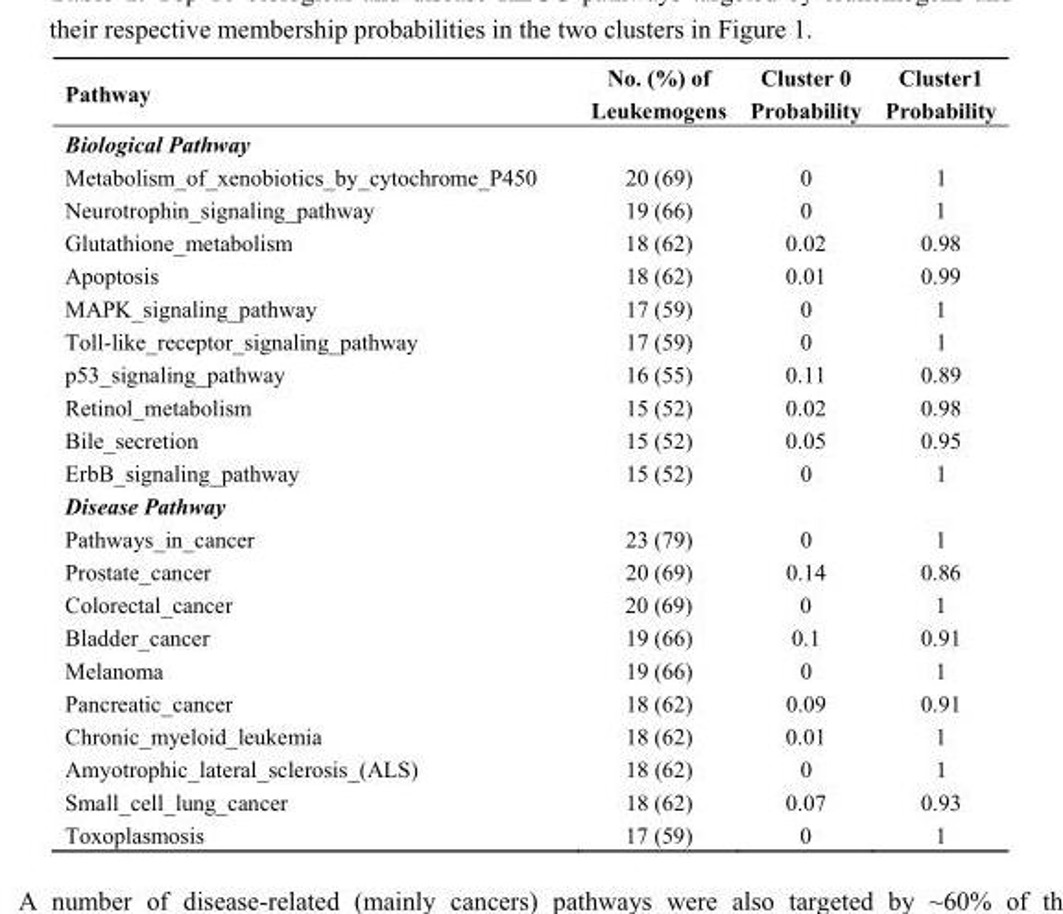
<table><thead><tr><td>Pathway</td><td>No. (%) of Leukemogens</td><td>Cluster 0 Probability</td><td>Cluster1 Probability</td></tr></thead><tbody><tr><td colspan="4">Biological Pathway</td></tr><tr><td>Metabolism_of_xenobiotics_by_cytochrome_P450</td><td>20 (69)</td><td>0</td><td>1</td></tr><tr><td>Neurotrophin_signaling_pathway</td><td>19 (66)</td><td>0</td><td>1</td></tr><tr><td>Glutathione_metabolism</td><td>18 (62)</td><td>0.02</td><td>0.98</td></tr><tr><td>Apoptosis</td><td>18 (62)</td><td>0.01</td><td>0.99</td></tr><tr><td>MAPK_signaling_pathway</td><td>17 (59)</td><td>0</td><td>1</td></tr><tr><td>Toll-like_receptor_signaling_pathway</td><td>17 (59)</td><td>0</td><td>1</td></tr><tr><td>p53_signaling_pathway</td><td>16 (55)</td><td>0.11</td><td>0.89</td></tr><tr><td>Retinol_metabolism</td><td>15 (52)</td><td>0.02</td><td>0.98</td></tr><tr><td>Bile_secretion</td><td>15 (52)</td><td>0.05</td><td>0.95</td></tr><tr><td>ErbB_signaling_pathway</td><td>15 (52)</td><td>0</td><td>1</td></tr><tr><td colspan="4">Disease Pathway</td></tr><tr><td>Pathways_in_cancer</td><td>23 (79)</td><td>0</td><td>1</td></tr><tr><td>Prostate_cancer</td><td>20 (69)</td><td>0.14</td><td>0.86</td></tr><tr><td>Colorectal_cancer</td><td>20 (69)</td><td>0</td><td>1</td></tr><tr><td>Bladder_cancer</td><td>19 (66)</td><td>0.1</td><td>0.91</td></tr><tr><td>Melanoma</td><td>19 (66)</td><td>0</td><td>1</td></tr><tr><td>Pancreatic_cancer</td><td>18 (62)</td><td>0.09</td><td>0.91</td></tr><tr><td>Chronic_myeloid_leukemia</td><td>18 (62)</td><td>0.01</td><td>1</td></tr><tr><td>Amyotrophic_lateral_sclerosis_(ALS)</td><td>18 (62)</td><td>0</td><td>1</td></tr><tr><td>Small_cell_lung_cancer</td><td>18 (62)</td><td>0.07</td><td>0.93</td></tr><tr><td>Toxoplasmosis</td><td>17 (59)</td><td>0</td><td>1</td></tr></tbody></table>